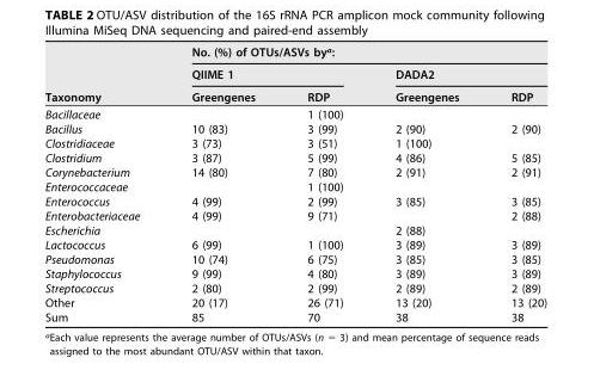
<table><thead><tr><td rowspan="3">Taxonomy</td><td colspan="4">No. (%) of OTUs/ASVs by<sup>a</sup>:</td></tr><tr><td colspan="2">QIIME 1</td><td colspan="2">DADA2</td></tr><tr><td>Greengenes</td><td>RDP</td><td>Greengenes</td><td>RDP</td></tr></thead><tbody><tr><td>Bacillaceae</td><td></td><td>1 (100)</td><td></td><td></td></tr><tr><td>Bacillus</td><td>10 (83)</td><td>3 (99)</td><td>2 (90)</td><td>2 (90)</td></tr><tr><td>Clostridiaceae</td><td>3 (73)</td><td>3 (51)</td><td>1 (100)</td><td></td></tr><tr><td>Clostridium</td><td>3 (87)</td><td>5 (99)</td><td>4 (86)</td><td>5 (85)</td></tr><tr><td>Corynebacterium</td><td>14 (80)</td><td>7 (80)</td><td>2 (91)</td><td>2 (91)</td></tr><tr><td>Enterococcaceae</td><td></td><td>1 (100)</td><td></td><td></td></tr><tr><td>Enterococcus</td><td>4 (99)</td><td>2 (99)</td><td>3 (85)</td><td>3 (85)</td></tr><tr><td>Enterobacteriaceae</td><td>4 (99)</td><td>9 (71)</td><td></td><td>2 (88)</td></tr><tr><td>Escherichia</td><td></td><td></td><td>2 (88)</td><td></td></tr><tr><td>Lactococcus</td><td>6 (99)</td><td>1 (100)</td><td>3 (89)</td><td>3 (89)</td></tr><tr><td>Pseudomonas</td><td>10 (74)</td><td>6 (75)</td><td>3 (85)</td><td>3 (85)</td></tr><tr><td>Staphylococcus</td><td>9 (99)</td><td>4 (80)</td><td>3 (89)</td><td>3 (89)</td></tr><tr><td>Streptococcus</td><td>2 (80)</td><td>2 (99)</td><td>2 (89)</td><td>2 (89)</td></tr><tr><td>Other</td><td>20 (17)</td><td>26 (71)</td><td>13 (20)</td><td>13 (20)</td></tr><tr><td>Sum</td><td>85</td><td>70</td><td>38</td><td>38</td></tr></tbody></table>